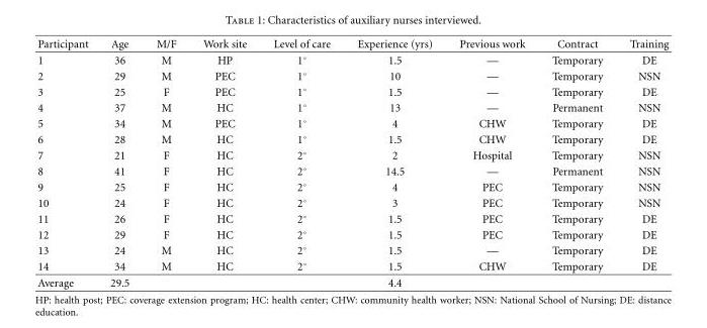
<table><thead><tr><td>Participant</td><td>Age</td><td>M/F</td><td>Work site</td><td>Level of care</td><td>Experience (yrs)</td><td>Previous work</td><td>Contract</td><td>Training</td></tr></thead><tbody><tr><td>1</td><td>36</td><td>M</td><td>HP</td><td>1◦</td><td>1.5</td><td>—</td><td>Temporary</td><td>DE</td></tr><tr><td>2</td><td>29</td><td>M</td><td>PEC</td><td>1◦</td><td>10</td><td>—</td><td>Temporary</td><td>NSN</td></tr><tr><td>3</td><td>25</td><td>F</td><td>PEC</td><td>1◦</td><td>1.5</td><td>—</td><td>Temporary</td><td>DE</td></tr><tr><td>4</td><td>37</td><td>M</td><td>HC</td><td>1◦</td><td>13</td><td>—</td><td>Permanent</td><td>NSN</td></tr><tr><td>5</td><td>34</td><td>M</td><td>PEC</td><td>1◦</td><td>4</td><td>CHW</td><td>Temporary</td><td>DE</td></tr><tr><td>6</td><td>28</td><td>M</td><td>HC</td><td>1◦</td><td>1.5</td><td>CHW</td><td>Temporary</td><td>DE</td></tr><tr><td>7</td><td>21</td><td>F</td><td>HC</td><td>2◦</td><td>2</td><td>Hospital</td><td>Temporary</td><td>NSN</td></tr><tr><td>8</td><td>41</td><td>F</td><td>HC</td><td>2◦</td><td>14.5</td><td>—</td><td>Permanent</td><td>NSN</td></tr><tr><td>9</td><td>25</td><td>F</td><td>HC</td><td>2◦</td><td>4</td><td>PEC</td><td>Temporary</td><td>NSN</td></tr><tr><td>10</td><td>24</td><td>F</td><td>HC</td><td>2◦</td><td>3</td><td>PEC</td><td>Temporary</td><td>NSN</td></tr><tr><td>11</td><td>26</td><td>F</td><td>HC</td><td>2◦</td><td>1.5</td><td>PEC</td><td>Temporary</td><td>DE</td></tr><tr><td>12</td><td>29</td><td>F</td><td>HC</td><td>2◦</td><td>1.5</td><td>PEC</td><td>Temporary</td><td>DE</td></tr><tr><td>13</td><td>24</td><td>M</td><td>HC</td><td>2◦</td><td>1.5</td><td>—</td><td>Temporary</td><td>DE</td></tr><tr><td>14</td><td>34</td><td>M</td><td>HC</td><td>2◦</td><td>1.5</td><td>CHW</td><td>Temporary</td><td>DE</td></tr><tr><td>Average</td><td>29.5</td><td></td><td></td><td></td><td>4.4</td><td></td><td></td><td></td></tr></tbody></table>